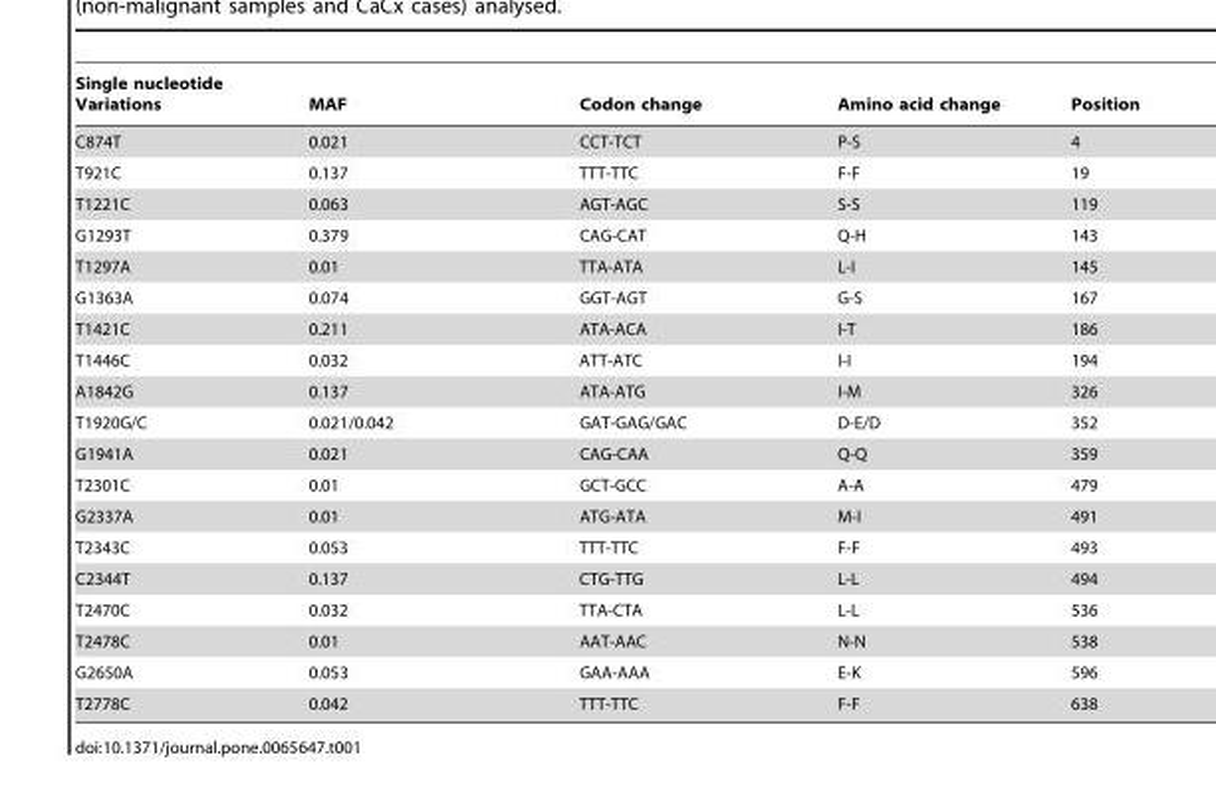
<table><thead><tr><td>Single nucleotide Variations</td><td>MAF</td><td>Codon change</td><td>Amino acid change</td><td>Position</td></tr></thead><tbody><tr><td>C874T</td><td>0.021</td><td>CCT-TCT</td><td>P-S</td><td>4</td></tr><tr><td>T921C</td><td>0.137</td><td>TTT-TTC</td><td>F-F</td><td>19</td></tr><tr><td>T1221C</td><td>0.063</td><td>AGT-AGC</td><td>S-S</td><td>119</td></tr><tr><td>G1293T</td><td>0.379</td><td>CAG-CAT</td><td>Q-H</td><td>143</td></tr><tr><td>T1297A</td><td>0.01</td><td>TTA-ATA</td><td>L-I</td><td>145</td></tr><tr><td>G1363A</td><td>0.074</td><td>GGT-AGT</td><td>G-S</td><td>167</td></tr><tr><td>T1421C</td><td>0.211</td><td>ATA-ACA</td><td>I-T</td><td>186</td></tr><tr><td>T1446C</td><td>0.032</td><td>ATT-ATC</td><td>I-I</td><td>194</td></tr><tr><td>A1842G</td><td>0.137</td><td>ATA-ATG</td><td>I-M</td><td>326</td></tr><tr><td>T1920G/C</td><td>0.021/0.042</td><td>GAT-GAG/GAC</td><td>D-E/D</td><td>352</td></tr><tr><td>G1941A</td><td>0.021</td><td>CAG-CAA</td><td>Q-Q</td><td>359</td></tr><tr><td>T2301C</td><td>0.01</td><td>GCT-GCC</td><td>A-A</td><td>479</td></tr><tr><td>G2337A</td><td>0.01</td><td>ATG-ATA</td><td>M-I</td><td>491</td></tr><tr><td>T2343C</td><td>0.053</td><td>TTT-TTC</td><td>F-F</td><td>493</td></tr><tr><td>C2344T</td><td>0.137</td><td>CTG-TTG</td><td>L-L</td><td>494</td></tr><tr><td>T2470C</td><td>0.032</td><td>TTA-CTA</td><td>L-L</td><td>536</td></tr><tr><td>T2478C</td><td>0.01</td><td>AAT-AAC</td><td>N-N</td><td>538</td></tr><tr><td>G2650A</td><td>0.053</td><td>GAA-AAA</td><td>E-K</td><td>596</td></tr><tr><td>T2778C</td><td>0.042</td><td>TTT-TTC</td><td>F-F</td><td>638</td></tr></tbody></table>